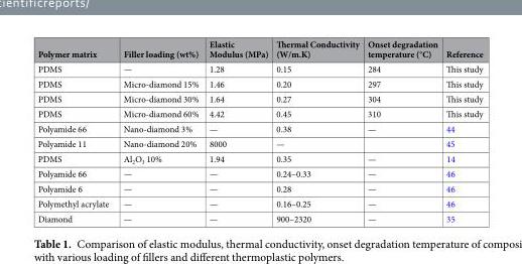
<table><thead><tr><td>Polymer matrix</td><td>Filler loading (wt%)</td><td>Elastic Modulus (MPa)</td><td>Thermal Conductivity (W/m.K)</td><td>Onset degradation temperature (°C)</td><td>Reference</td></tr></thead><tbody><tr><td>PDMS</td><td>—</td><td>1.28</td><td>0.15</td><td>284</td><td>This study</td></tr><tr><td>PDMS</td><td>Micro-diamond 15%</td><td>1.46</td><td>0.20</td><td>297</td><td>This study</td></tr><tr><td>PDMS</td><td>Micro-diamond 30%</td><td>1.64</td><td>0.27</td><td>304</td><td>This study</td></tr><tr><td>PDMS</td><td>Micro-diamond 60%</td><td>4.42</td><td>0.45</td><td>310</td><td>This study</td></tr><tr><td>Polyamide 66</td><td>Nano-diamond 3%</td><td>—</td><td>0.38</td><td>—</td><td>44</td></tr><tr><td>Polyamide 11</td><td>Nano-diamond 20%</td><td>8000</td><td>—</td><td></td><td>45</td></tr><tr><td>PDMS</td><td>Al<sub>2</sub>O<sub>3</sub> 10%</td><td>1.94</td><td>0.35</td><td>—</td><td>14</td></tr><tr><td>Polyamide 66</td><td>—</td><td>—</td><td>0.24–0.33</td><td>—</td><td>46</td></tr><tr><td>Polyamide 6</td><td>—</td><td>—</td><td>0.28</td><td>—</td><td>46</td></tr><tr><td>Polymethyl acrylate</td><td>—</td><td>—</td><td>0.16–0.25</td><td>—</td><td>46</td></tr><tr><td>Diamond</td><td>—</td><td>—</td><td>900–2320</td><td>—</td><td>35</td></tr></tbody></table>